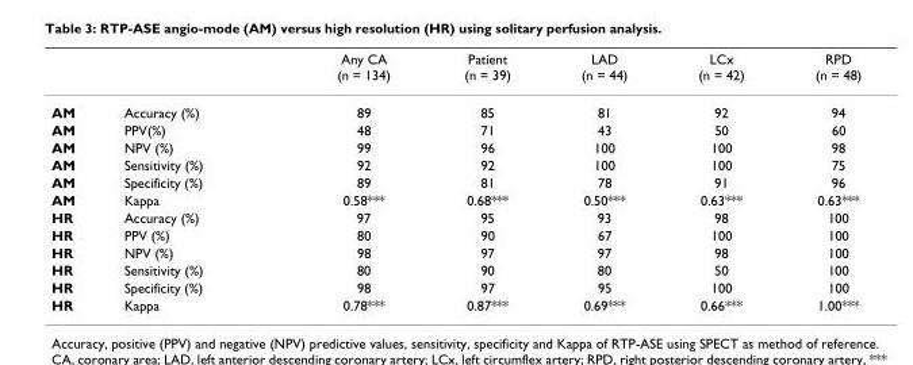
<table><thead><tr><td></td><td></td><td>Any CA (n = 134)</td><td>Patient (n = 39)</td><td>LAD (n = 44)</td><td>LCx (n = 42)</td><td>RPD (n = 48)</td></tr></thead><tbody><tr><td>AM</td><td>Accuracy (%)</td><td>89</td><td>85</td><td>81</td><td>92</td><td>94</td></tr><tr><td>AM</td><td>PPV(%)</td><td>48</td><td>71</td><td>43</td><td>50</td><td>60</td></tr><tr><td>AM</td><td>NPV (%)</td><td>99</td><td>96</td><td>100</td><td>100</td><td>98</td></tr><tr><td>AM</td><td>Sensitivity (%)</td><td>92</td><td>92</td><td>100</td><td>100</td><td>75</td></tr><tr><td>AM</td><td>Specificity (%)</td><td>89</td><td>81</td><td>78</td><td>91</td><td>96</td></tr><tr><td>AM</td><td>Kappa</td><td>0.58***</td><td>0.68***</td><td>0.50***</td><td>0.63***</td><td>0.63***</td></tr><tr><td>HR</td><td>Accuracy (%)</td><td>97</td><td>95</td><td>93</td><td>98</td><td>100</td></tr><tr><td>HR</td><td>PPV (%)</td><td>80</td><td>90</td><td>67</td><td>100</td><td>100</td></tr><tr><td>HR</td><td>NPV (%)</td><td>98</td><td>97</td><td>97</td><td>98</td><td>100</td></tr><tr><td>HR</td><td>Sensitivity (%)</td><td>80</td><td>90</td><td>80</td><td>50</td><td>100</td></tr><tr><td>HR</td><td>Specificity (%)</td><td>98</td><td>97</td><td>95</td><td>100</td><td>100</td></tr><tr><td>HR</td><td>Kappa</td><td>0.78***</td><td>0.87***</td><td>0.69***</td><td>0.66***</td><td>1.00***</td></tr></tbody></table>